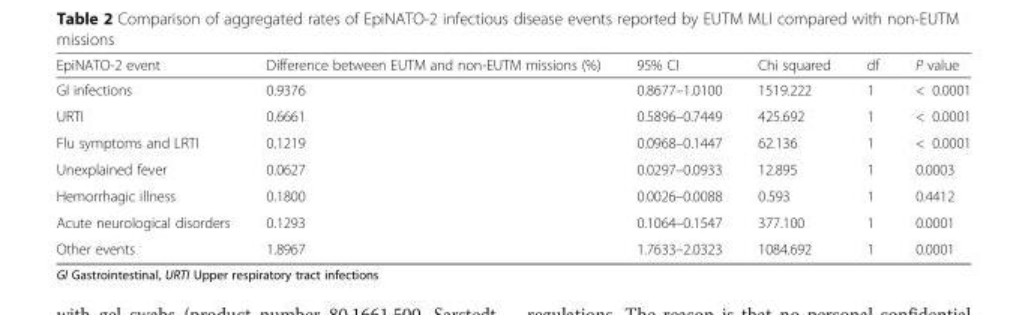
<table><thead><tr><td>EpiNATO-2 event</td><td>Difference between EUTM and non-EUTM missions (%)</td><td>95% CI</td><td>Chi squared</td><td>df</td><td>P value</td></tr></thead><tbody><tr><td>GI infections</td><td>0.9376</td><td>0.8677–1.0100</td><td>1519.222</td><td>1</td><td>&lt; 0.0001</td></tr><tr><td>URTI</td><td>0.6661</td><td>0.5896–0.7449</td><td>425.692</td><td>1</td><td>&lt; 0.0001</td></tr><tr><td>Flu symptoms and LRTI</td><td>0.1219</td><td>0.0968–0.1447</td><td>62.136</td><td>1</td><td>&lt; 0.0001</td></tr><tr><td>Unexplained fever</td><td>0.0627</td><td>0.0297–0.0933</td><td>12.895</td><td>1</td><td>0.0003</td></tr><tr><td>Hemorrhagic illness</td><td>0.1800</td><td>0.0026–0.0088</td><td>0.593</td><td>1</td><td>0.4412</td></tr><tr><td>Acute neurological disorders</td><td>0.1293</td><td>0.1064–0.1547</td><td>377.100</td><td>1</td><td>0.0001</td></tr><tr><td>Other events</td><td>1.8967</td><td>1.7633–2.0323</td><td>1084.692</td><td>1</td><td>0.0001</td></tr></tbody></table>